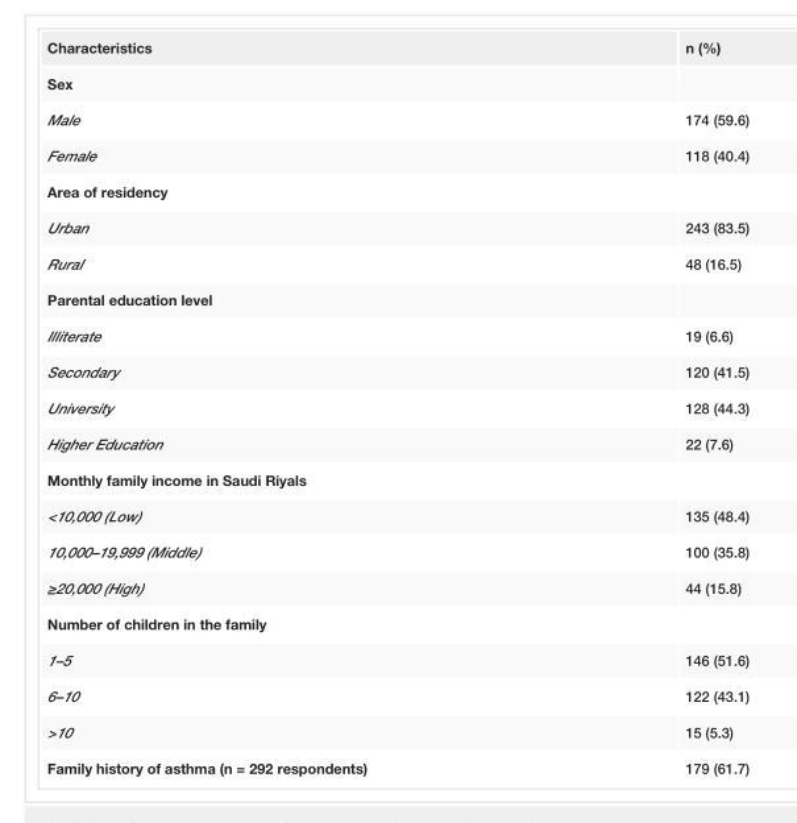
<table><tbody><tr><td>Characteristics</td><td>n (%)</td></tr><tr><td colspan="2">Sex</td></tr><tr><td>Male</td><td>174 (59.6)</td></tr><tr><td>Female</td><td>118 (40.4)</td></tr><tr><td colspan="2">Area of residency</td></tr><tr><td>Urban</td><td>243 (83.5)</td></tr><tr><td>Rural</td><td>48 (16.5)</td></tr><tr><td colspan="2">Parental education level</td></tr><tr><td>Illiterate</td><td>19 (6.6)</td></tr><tr><td>Secondary</td><td>120 (41.5)</td></tr><tr><td>University</td><td>128 (44.3)</td></tr><tr><td>Higher Education</td><td>22 (7.6)</td></tr><tr><td colspan="2">Monthly family income in Saudi Riyals</td></tr><tr><td>&lt;10,000 (Low)</td><td>135 (48.4)</td></tr><tr><td>10,000–19,999 (Middle)</td><td>100 (35.8)</td></tr><tr><td>≥20,000 (High)</td><td>44 (15.8)</td></tr><tr><td colspan="2">Number of children in the family</td></tr><tr><td>1–5</td><td>146 (51.6)</td></tr><tr><td>6–10</td><td>122 (43.1)</td></tr><tr><td>&gt;10</td><td>15 (5.3)</td></tr><tr><td>Family history of asthma (n = 292 respondents)</td><td>179 (61.7)</td></tr></tbody></table>